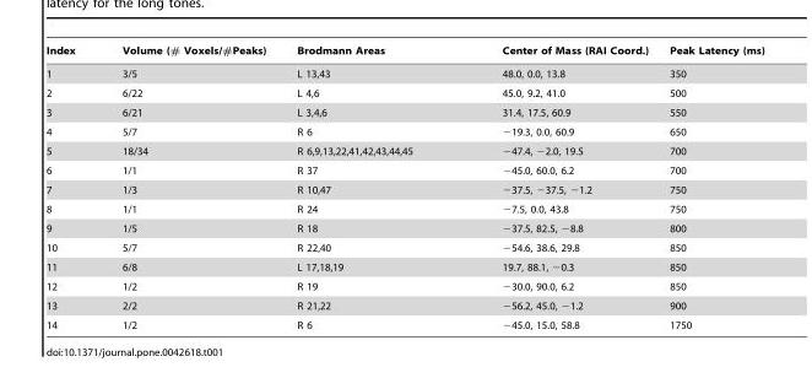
<table><thead><tr><td>Index</td><td>Volume (# Voxels/#Peaks)</td><td>Brodmann Areas</td><td>Center of Mass (RAI Coord.)</td><td>Peak Latency (ms)</td></tr></thead><tbody><tr><td>1</td><td>3/5</td><td>L 13,43</td><td>48.0, 0.0, 13.8</td><td>350</td></tr><tr><td>2</td><td>6/22</td><td>L 4,6</td><td>45.0, 9.2, 41.0</td><td>500</td></tr><tr><td>3</td><td>6/21</td><td>L 3,4,6</td><td>31.4, 17.5, 60.9</td><td>550</td></tr><tr><td>4</td><td>5/7</td><td>R 6</td><td>−19.3, 0.0, 60.9</td><td>650</td></tr><tr><td>5</td><td>18/34</td><td>R 6,9,13,22,41,42,43,44,45</td><td>−47.4, −2.0, 19.5</td><td>700</td></tr><tr><td>6</td><td>1/1</td><td>R 37</td><td>−45.0, 60.0, 6.2</td><td>700</td></tr><tr><td>7</td><td>1/3</td><td>R 10,47</td><td>−37.5, −37.5, −1.2</td><td>750</td></tr><tr><td>8</td><td>1/1</td><td>R 24</td><td>−7.5, 0.0, 43.8</td><td>750</td></tr><tr><td>9</td><td>1/5</td><td>R 18</td><td>−37.5, 82.5, −8.8</td><td>800</td></tr><tr><td>10</td><td>5/7</td><td>R 22,40</td><td>−54.6, 38.6, 29.8</td><td>850</td></tr><tr><td>11</td><td>6/8</td><td>L 17,18,19</td><td>19.7, 88.1, −0.3</td><td>850</td></tr><tr><td>12</td><td>1/2</td><td>R 19</td><td>−30.0, 90.0, 6.2</td><td>850</td></tr><tr><td>13</td><td>2/2</td><td>R 21,22</td><td>−56.2, 45.0, −1.2</td><td>900</td></tr><tr><td>14</td><td>1/2</td><td>R 6</td><td>−45.0, 15.0, 58.8</td><td>1750</td></tr></tbody></table>